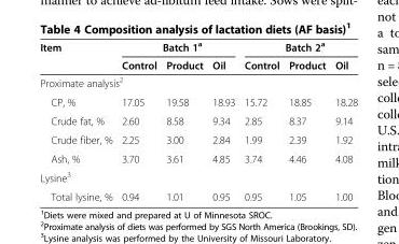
<table><thead><tr><td rowspan="2">Item</td><td colspan="3">Batch 1<sup>a</sup></td><td colspan="3">Batch 2<sup>a</sup></td></tr><tr><td>Control</td><td>Product</td><td>Oil</td><td>Control</td><td>Product</td><td>Oil</td></tr></thead><tbody><tr><td colspan="7">Proximate analysis<sup>2</sup></td></tr><tr><td>CP, %</td><td>17.05</td><td>19.58</td><td>18.93</td><td>15.72</td><td>18.85</td><td>18.28</td></tr><tr><td>Crude fat, %</td><td>2.60</td><td>8.58</td><td>9.34</td><td>2.85</td><td>8.37</td><td>9.14</td></tr><tr><td>Crude fiber, %</td><td>2.25</td><td>3.00</td><td>2.84</td><td>1.99</td><td>2.39</td><td>1.92</td></tr><tr><td>Ash, %</td><td rowspan="2">3.70</td><td rowspan="2">3.61</td><td rowspan="2">4.85</td><td rowspan="2">3.74</td><td rowspan="2">4.46</td><td rowspan="2">4.08</td></tr><tr><td>Lysine<sup>3</sup></td></tr><tr><td>Total lysine, %</td><td>0.94</td><td>1.01</td><td>0.95</td><td>0.95</td><td>1.05</td><td>1.00</td></tr></tbody></table>